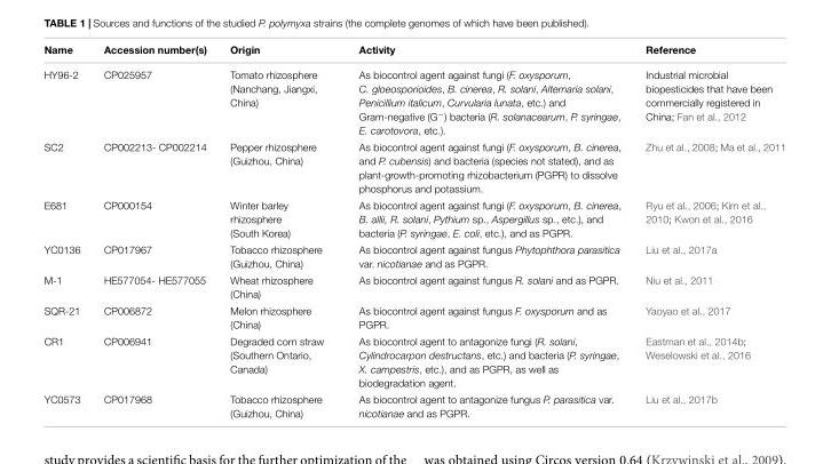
<table><thead><tr><td>Name</td><td>Accession number(s)</td><td>Origin</td><td>Activity</td><td>Reference</td></tr></thead><tbody><tr><td>HY96-2</td><td>CP025957</td><td>Tomato rhizosphere (Nanchang, Jiangxi, China)</td><td>As biocontrol agent against fungi (F. oxysporum, C. gloeosporioides, B. cinerea, R. solani, Alternaria solani, Penicillium italicum, Curvularia lunata, etc.) and Gram-negative (G<sup>−</sup>) bacteria (R. solanacearum, P. syringae, E. carotovora, etc.).</td><td>Industrial microbial biopesticides that have been commercially registered in China; Fan et al., 2012</td></tr><tr><td>SC2</td><td>CP002213- CP002214</td><td>Pepper rhizosphere (Guizhou, China)</td><td>As biocontrol agent against fungi (F. oxysporum, B. cinerea, and P. cubensis) and bacteria (species not stated), and as plant-growth-promoting rhizobacterium (PGPR) to dissolve phosphorus and potassium.</td><td>Zhu et al., 2008; Ma et al., 2011</td></tr><tr><td>E681</td><td>CP000154</td><td>Winter barley rhizosphere (South Korea)</td><td>As biocontrol agent against fungi (F. oxysporum, B. cinerea, B. allii, R. solani, Pythium sp., Aspergillus sp., etc.), and bacteria (P. syringae, E. coli, etc.), and as PGPR.</td><td>Ryu et al., 2006; Kim et al., 2010; Kwon et al., 2016</td></tr><tr><td>YC0136</td><td>CP017967</td><td>Tobacco rhizosphere (Guizhou, China)</td><td>As biocontrol agent against fungus Phytophthora parasitica var. nicotianae and as PGPR.</td><td>Liu et al., 2017a</td></tr><tr><td>M-1</td><td>HE577054- HE577055</td><td>Wheat rhizosphere (China)</td><td>As biocontrol agent against fungus R. solani and as PGPR.</td><td>Niu et al., 2011</td></tr><tr><td>SQR-21</td><td>CP006872</td><td>Melon rhizosphere (China)</td><td>As biocontrol agent against fungus F. oxysporum and as PGPR.</td><td>Yaoyao et al., 2017</td></tr><tr><td>CR1</td><td>CP006941</td><td>Degraded corn straw (Southern Ontario, Canada)</td><td>As biocontrol agent to antagonize fungi (R. solani, Cylindrocarpon destructans, etc.) and bacteria (P. syringae, X. campestris, etc.), and as PGPR, as well as biodegradation agent.</td><td>Eastman et al., 2014b; Weselowski et al., 2016</td></tr><tr><td>YC0573</td><td>CP017968</td><td>Tobacco rhizosphere (Guizhou, China)</td><td>As biocontrol agent to antagonize fungus P. parasitica var. nicotianae and as PGPR.</td><td>Liu et al., 2017b</td></tr></tbody></table>